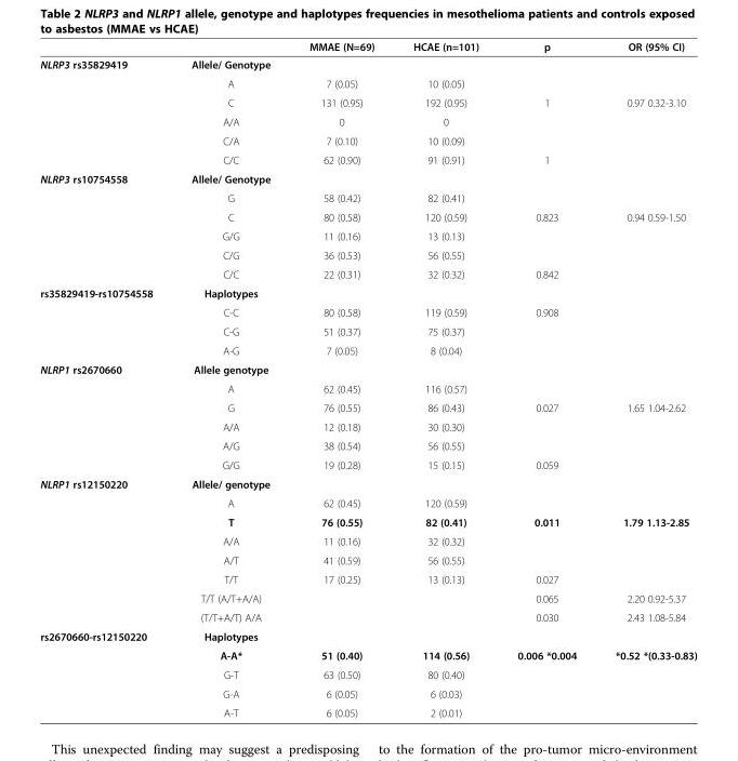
<table><thead><tr><td></td><td></td><td>MMAE (N=69)</td><td>HCAE (n=101)</td><td>p</td><td>OR (95% CI)</td></tr></thead><tbody><tr><td rowspan="6">NLRP3 rs35829419</td><td>Allele/ Genotype</td><td></td><td></td><td></td><td></td></tr><tr><td>A</td><td>7 (0.05)</td><td>10 (0.05)</td><td></td><td></td></tr><tr><td>C</td><td>131 (0.95)</td><td>192 (0.95)</td><td>1</td><td>0.97 0.32-3.10</td></tr><tr><td>A/A</td><td>0</td><td>0</td><td></td><td></td></tr><tr><td>C/A</td><td>7 (0.10)</td><td>10 (0.09)</td><td></td><td></td></tr><tr><td>C/C</td><td>62 (0.90)</td><td>91 (0.91)</td><td>1</td><td></td></tr><tr><td rowspan="6">NLRP3 rs10754558</td><td>Allele/ Genotype</td><td></td><td></td><td></td><td></td></tr><tr><td>G</td><td>58 (0.42)</td><td>82 (0.41)</td><td></td><td></td></tr><tr><td>C</td><td>80 (0.58)</td><td>120 (0.59)</td><td>0.823</td><td>0.94 0.59-1.50</td></tr><tr><td>G/G</td><td>11 (0.16)</td><td>13 (0.13)</td><td></td><td></td></tr><tr><td>C/G</td><td>36 (0.53)</td><td>56 (0.55)</td><td></td><td></td></tr><tr><td>C/C</td><td>22 (0.31)</td><td>32 (0.32)</td><td>0.842</td><td></td></tr><tr><td rowspan="4">rs35829419-rs10754558</td><td>Haplotypes</td><td></td><td></td><td></td><td></td></tr><tr><td>C-C</td><td>80 (0.58)</td><td>119 (0.59)</td><td>0.908</td><td></td></tr><tr><td>C-G</td><td>51 (0.37)</td><td>75 (0.37)</td><td></td><td></td></tr><tr><td>A-G</td><td>7 (0.05)</td><td>8 (0.04)</td><td></td><td></td></tr><tr><td rowspan="6">NLRP1 rs2670660</td><td>Allele genotype</td><td></td><td></td><td></td><td></td></tr><tr><td>A</td><td>62 (0.45)</td><td>116 (0.57)</td><td></td><td></td></tr><tr><td>G</td><td>76 (0.55)</td><td>86 (0.43)</td><td>0.027</td><td>1.65 1.04-2.62</td></tr><tr><td>A/A</td><td>12 (0.18)</td><td>30 (0.30)</td><td></td><td></td></tr><tr><td>A/G</td><td>38 (0.54)</td><td>56 (0.55)</td><td></td><td></td></tr><tr><td>G/G</td><td>19 (0.28)</td><td>15 (0.15)</td><td>0.059</td><td></td></tr><tr><td rowspan="8">NLRP1 rs12150220</td><td>Allele/ genotype</td><td></td><td></td><td></td><td></td></tr><tr><td>A</td><td>62 (0.45)</td><td>120 (0.59)</td><td></td><td></td></tr><tr><td>T</td><td>76 (0.55)</td><td>82 (0.41)</td><td>0.011</td><td>1.79 1.13-2.85</td></tr><tr><td>A/A</td><td>11 (0.16)</td><td>32 (0.32)</td><td></td><td></td></tr><tr><td>A/T</td><td>41 (0.59)</td><td>56 (0.55)</td><td></td><td></td></tr><tr><td>T/T</td><td>17 (0.25)</td><td>13 (0.13)</td><td>0.027</td><td></td></tr><tr><td>T/T (A/T+A/A)</td><td></td><td></td><td>0.065</td><td>2.20 0.92-5.37</td></tr><tr><td>(T/T+A/T) A/A</td><td></td><td></td><td>0.030</td><td>2.43 1.08-5.84</td></tr><tr><td rowspan="5">rs2670660-rs12150220</td><td>Haplotypes</td><td></td><td></td><td></td><td></td></tr><tr><td>A-A*</td><td>51 (0.40)</td><td>114 (0.56)</td><td>0.006 *0.004</td><td>*0.52 *(0.33-0.83)</td></tr><tr><td>G-T</td><td>63 (0.50)</td><td>80 (0.40)</td><td></td><td></td></tr><tr><td>G-A</td><td>6 (0.05)</td><td>6 (0.03)</td><td></td><td></td></tr><tr><td>A-T</td><td>6 (0.05)</td><td>2 (0.01)</td><td></td><td></td></tr></tbody></table>